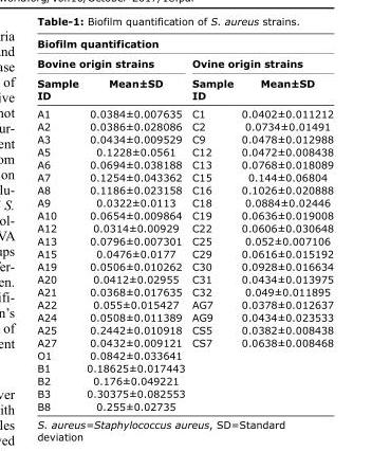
<table><thead><tr><td colspan="4">Biofilm quantification</td></tr><tr><td colspan="2">Bovine origin strains</td><td colspan="2">Ovine origin strains</td></tr><tr><td>Sample ID</td><td>Mean±SD</td><td>Sample ID</td><td>Mean±SD</td></tr></thead><tbody><tr><td>A1</td><td>0.0384±0.007635</td><td>C1</td><td>0.0402±0.011212</td></tr><tr><td>A2</td><td>0.0386±0.028086</td><td>C2</td><td>0.0734±0.01491</td></tr><tr><td>A3</td><td>0.0434±0.009529</td><td>C9</td><td>0.0478±0.012988</td></tr><tr><td>A5</td><td>0.1228±0.0561</td><td>C12</td><td>0.0472±0.008438</td></tr><tr><td>A6</td><td>0.0694±0.038188</td><td>C13</td><td>0.0768±0.018089</td></tr><tr><td>A7</td><td>0.1254±0.043362</td><td>C15</td><td>0.144±0.06804</td></tr><tr><td>A8</td><td>0.1186±0.023158</td><td>C16</td><td>0.1026±0.020888</td></tr><tr><td>A9</td><td>0.0322±0.0113</td><td>C18</td><td>0.0884±0.02446</td></tr><tr><td>A10</td><td>0.0654±0.009864</td><td>C19</td><td>0.0636±0.019008</td></tr><tr><td>A12</td><td>0.0314±0.00929</td><td>C22</td><td>0.0606±0.030648</td></tr><tr><td>A13</td><td>0.0796±0.007301</td><td>C25</td><td>0.052±0.007106</td></tr><tr><td>A15</td><td>0.0476±0.0177</td><td>C29</td><td>0.0616±0.015192</td></tr><tr><td>A19</td><td>0.0506±0.010262</td><td>C30</td><td>0.0928±0.016634</td></tr><tr><td>A20</td><td>0.0412±0.02955</td><td>C31</td><td>0.0434±0.013975</td></tr><tr><td>A21</td><td>0.0368±0.017635</td><td>C32</td><td>0.049±0.011895</td></tr><tr><td>A22</td><td>0.055±0.015427</td><td>AG7</td><td>0.0378±0.012637</td></tr><tr><td>A24</td><td>0.0508±0.011389</td><td>AG9</td><td>0.0434±0.023533</td></tr><tr><td>A25</td><td>0.2442±0.010918</td><td>CS5</td><td>0.0382±0.008438</td></tr><tr><td>A27</td><td>0.0432±0.009121</td><td>CS7</td><td>0.0638±0.008468</td></tr><tr><td>O1</td><td>0.0842±0.033641</td><td></td><td></td></tr><tr><td>B1</td><td>0.18625±0.017443</td><td></td><td></td></tr><tr><td>B2</td><td>0.176±0.049221</td><td></td><td></td></tr><tr><td>B3</td><td>0.30375±0.082553</td><td></td><td></td></tr><tr><td>B8</td><td>0.255±0.02735</td><td></td><td></td></tr></tbody></table>